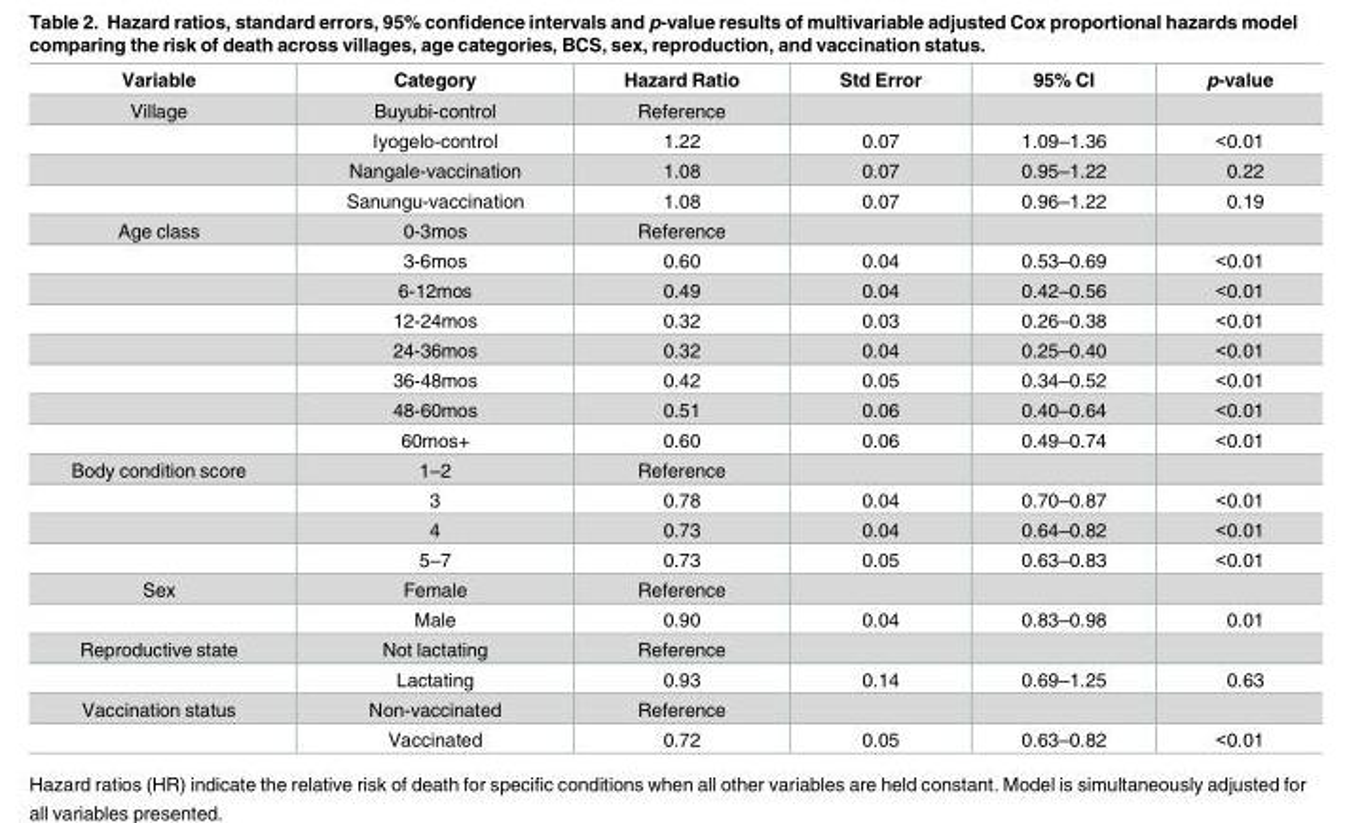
<table><thead><tr><td>Variable</td><td>Category</td><td>Hazard Ratio</td><td>Std Error</td><td>95% CI</td><td>p-value</td></tr></thead><tbody><tr><td rowspan="4">Village</td><td>Buyubi-control</td><td>Reference</td><td></td><td></td><td></td></tr><tr><td>Iyogelo-control</td><td>1.22</td><td>0.07</td><td>1.09–1.36</td><td>&lt;0.01</td></tr><tr><td>Nangale-vaccination</td><td>1.08</td><td>0.07</td><td>0.95–1.22</td><td>0.22</td></tr><tr><td>Sanungu-vaccination</td><td>1.08</td><td>0.07</td><td>0.96–1.22</td><td>0.19</td></tr><tr><td rowspan="8">Age class</td><td>0-3mos</td><td>Reference</td><td></td><td></td><td></td></tr><tr><td>3-6mos</td><td>0.60</td><td>0.04</td><td>0.53–0.69</td><td>&lt;0.01</td></tr><tr><td>6-12mos</td><td>0.49</td><td>0.04</td><td>0.42–0.56</td><td>&lt;0.01</td></tr><tr><td>12-24mos</td><td>0.32</td><td>0.03</td><td>0.26–0.38</td><td>&lt;0.01</td></tr><tr><td>24-36mos</td><td>0.32</td><td>0.04</td><td>0.25–0.40</td><td>&lt;0.01</td></tr><tr><td>36-48mos</td><td>0.42</td><td>0.05</td><td>0.34–0.52</td><td>&lt;0.01</td></tr><tr><td>48-60mos</td><td>0.51</td><td>0.06</td><td>0.40–0.64</td><td>&lt;0.01</td></tr><tr><td>60mos+</td><td>0.60</td><td>0.06</td><td>0.49–0.74</td><td>&lt;0.01</td></tr><tr><td rowspan="4">Body condition score</td><td>1–2</td><td>Reference</td><td></td><td></td><td></td></tr><tr><td>3</td><td>0.78</td><td>0.04</td><td>0.70–0.87</td><td>&lt;0.01</td></tr><tr><td>4</td><td>0.73</td><td>0.04</td><td>0.64–0.82</td><td>&lt;0.01</td></tr><tr><td>5–7</td><td>0.73</td><td>0.05</td><td>0.63–0.83</td><td>&lt;0.01</td></tr><tr><td rowspan="2">Sex</td><td>Female</td><td>Reference</td><td></td><td></td><td></td></tr><tr><td>Male</td><td>0.90</td><td>0.04</td><td>0.83–0.98</td><td>0.01</td></tr><tr><td rowspan="2">Reproductive state</td><td>Not lactating</td><td>Reference</td><td></td><td></td><td></td></tr><tr><td>Lactating</td><td>0.93</td><td>0.14</td><td>0.69–1.25</td><td>0.63</td></tr><tr><td rowspan="2">Vaccination status</td><td>Non-vaccinated</td><td>Reference</td><td></td><td></td><td></td></tr><tr><td>Vaccinated</td><td>0.72</td><td>0.05</td><td>0.63–0.82</td><td>&lt;0.01</td></tr></tbody></table>